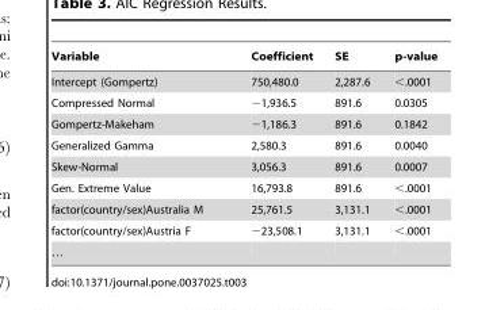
<table><thead><tr><td>Variable</td><td>Coefficient</td><td>SE</td><td>p-value</td></tr></thead><tbody><tr><td>Intercept (Gompertz)</td><td>750,480.0</td><td>2,287.6</td><td>&lt;.0001</td></tr><tr><td>Compressed Normal</td><td>−1,936.5</td><td>891.6</td><td>0.0305</td></tr><tr><td>Gompertz-Makeham</td><td>−1,186.3</td><td>891.6</td><td>0.1842</td></tr><tr><td>Generalized Gamma</td><td>2,580.3</td><td>891.6</td><td>0.0040</td></tr><tr><td>Skew-Normal</td><td>3,056.3</td><td>891.6</td><td>0.0007</td></tr><tr><td>Gen. Extreme Value</td><td>16,793.8</td><td>891.6</td><td>&lt;.0001</td></tr><tr><td>factor(country/sex)Australia M</td><td>25,761.5</td><td>3,131.1</td><td>&lt;.0001</td></tr><tr><td>factor(country/sex)Austria F</td><td>−23,508.1</td><td>3,131.1</td><td>&lt;.0001</td></tr><tr><td>…</td><td></td><td></td><td></td></tr></tbody></table>